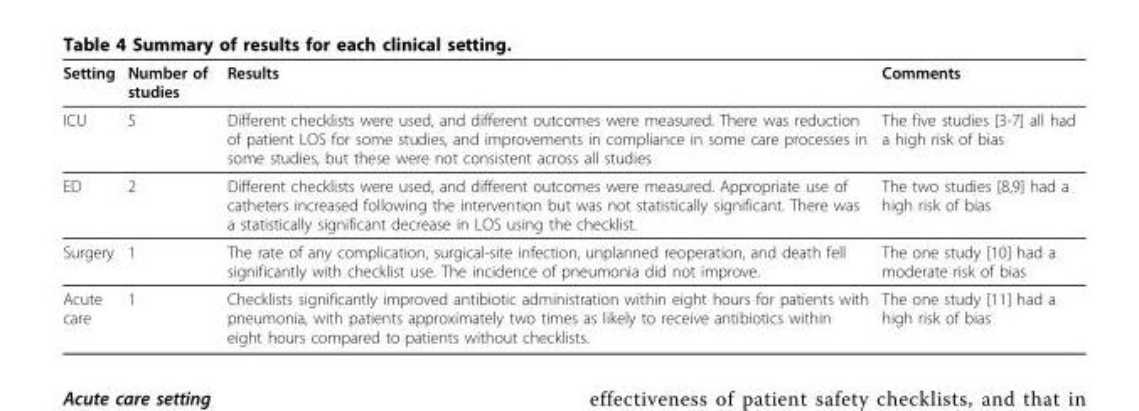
<table><thead><tr><td>Setting</td><td>Number of studies</td><td>Results</td><td>Comments</td></tr></thead><tbody><tr><td>ICU</td><td>5</td><td>Different checklists were used, and different outcomes were measured. There was reduction of patient LOS for some studies, and improvements in compliance in some care processes in some studies, but these were not consistent across all studies</td><td>The five studies [3-7] all had a high risk of bias</td></tr><tr><td>ED</td><td>2</td><td>Different checklists were used, and different outcomes were measured. Appropriate use of catheters increased following the intervention but was not statistically significant. There was a statistically significant decrease in LOS using the checklist.</td><td>The two studies [8,9] had a high risk of bias</td></tr><tr><td>Surgery</td><td>1</td><td>The rate of any complication, surgical-site infection, unplanned reoperation, and death fell significantly with checklist use. The incidence of pneumonia did not improve.</td><td>The one study [10] had a moderate risk of bias</td></tr><tr><td>Acute care</td><td>1</td><td>Checklists significantly improved antibiotic administration within eight hours for patients with pneumonia, with patients approximately two times as likely to receive antibiotics within eight hours compared to patients without checklists.</td><td>The one study [11] had a high risk of bias</td></tr></tbody></table>